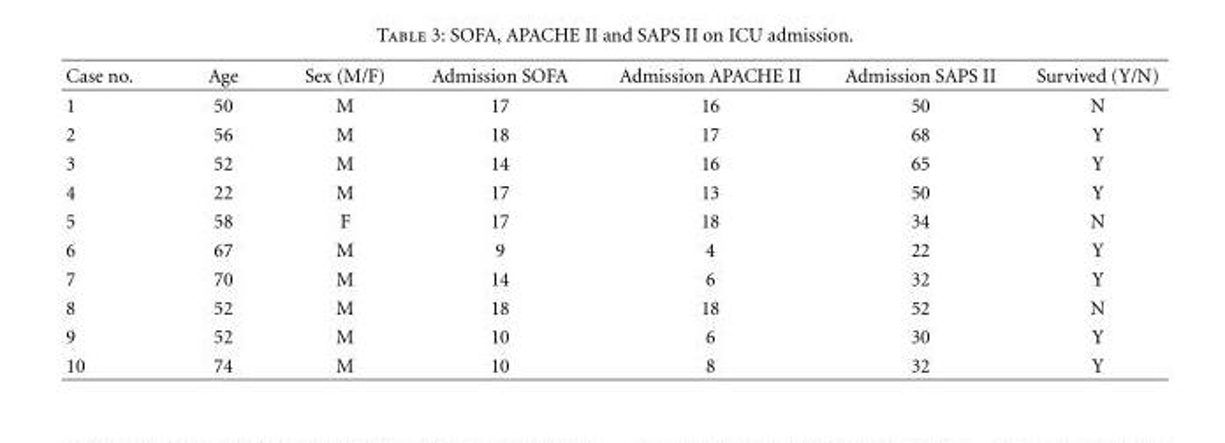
<table><thead><tr><td>Case no.</td><td>Age</td><td>Sex (M/F)</td><td>Admission SOFA</td><td>Admission APACHE II</td><td>Admission SAPS II</td><td>Survived (Y/N)</td></tr></thead><tbody><tr><td>1</td><td>50</td><td>M</td><td>17</td><td>16</td><td>50</td><td>N</td></tr><tr><td>2</td><td>56</td><td>M</td><td>18</td><td>17</td><td>68</td><td>Y</td></tr><tr><td>3</td><td>52</td><td>M</td><td>14</td><td>16</td><td>65</td><td>Y</td></tr><tr><td>4</td><td>22</td><td>M</td><td>17</td><td>13</td><td>50</td><td>Y</td></tr><tr><td>5</td><td>58</td><td>F</td><td>17</td><td>18</td><td>34</td><td>N</td></tr><tr><td>6</td><td>67</td><td>M</td><td>9</td><td>4</td><td>22</td><td>Y</td></tr><tr><td>7</td><td>70</td><td>M</td><td>14</td><td>6</td><td>32</td><td>Y</td></tr><tr><td>8</td><td>52</td><td>M</td><td>18</td><td>18</td><td>52</td><td>N</td></tr><tr><td>9</td><td>52</td><td>M</td><td>10</td><td>6</td><td>30</td><td>Y</td></tr><tr><td>10</td><td>74</td><td>M</td><td>10</td><td>8</td><td>32</td><td>Y</td></tr></tbody></table>